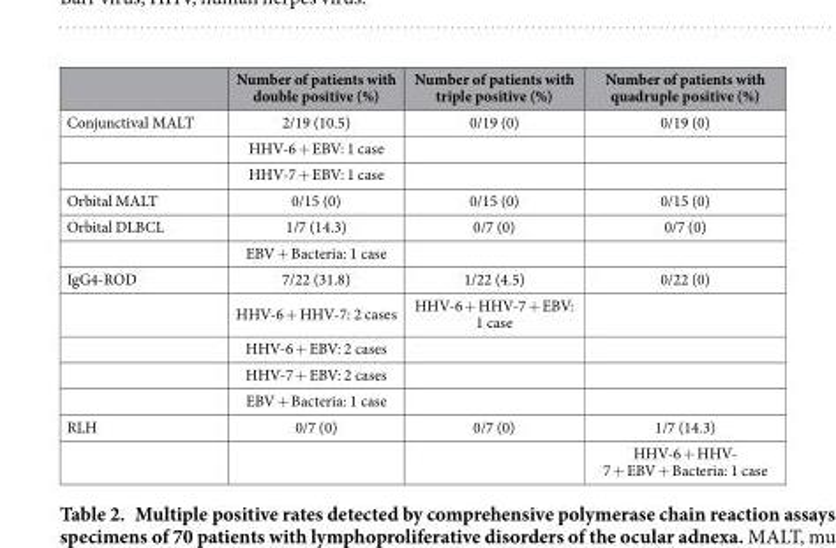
<table><thead><tr><td></td><td>Number of patients with double positive (%)</td><td>Number of patients with triple positive (%)</td><td>Number of patients with quadruple positive (%)</td></tr></thead><tbody><tr><td rowspan="3">Conjunctival MALT</td><td>2/19 (10.5)</td><td>0/19 (0)</td><td>0/19 (0)</td></tr><tr><td>HHV-6 + EBV: 1 case</td><td></td><td></td></tr><tr><td>HHV-7 + EBV: 1 case</td><td></td><td></td></tr><tr><td>Orbital MALT</td><td>0/15 (0)</td><td>0/15 (0)</td><td>0/15 (0)</td></tr><tr><td rowspan="2">Orbital DLBCL</td><td>1/7 (14.3)</td><td>0/7 (0)</td><td>0/7 (0)</td></tr><tr><td>EBV + Bacteria: 1 case</td><td></td><td></td></tr><tr><td rowspan="5">IgG4-ROD</td><td>7/22 (31.8)</td><td>1/22 (4.5)</td><td>0/22 (0)</td></tr><tr><td>HHV-6 + HHV-7: 2 cases</td><td>HHV-6 + HHV-7 + EBV: 1 case</td><td></td></tr><tr><td>HHV-6 + EBV: 2 cases</td><td></td><td></td></tr><tr><td>HHV-7 + EBV: 2 cases</td><td></td><td></td></tr><tr><td>EBV + Bacteria: 1 case</td><td></td><td></td></tr><tr><td rowspan="2">RLH</td><td>0/7 (0)</td><td>0/7 (0)</td><td>1/7 (14.3)</td></tr><tr><td></td><td></td><td>HHV-6 + HHV- 7 + EBV + Bacteria: 1 case</td></tr></tbody></table>